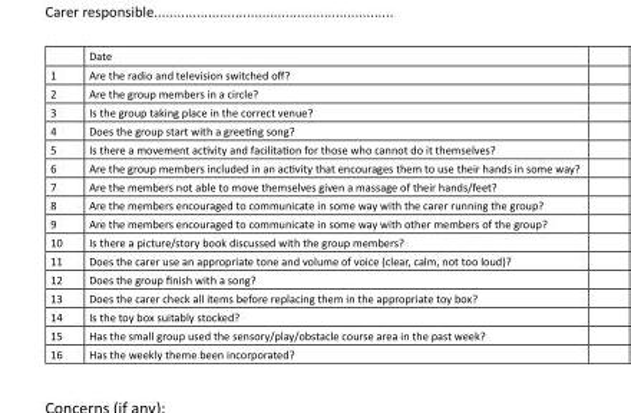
<table><thead><tr><td></td><td>Date</td></tr></thead><tbody><tr><td>1</td><td>Are the radio and television switched off?</td></tr><tr><td>2</td><td>Are the group members in a circle?</td></tr><tr><td>3</td><td>Is the group taking place in the correct venue?</td></tr><tr><td>4</td><td>Does the group start with a greeting song?</td></tr><tr><td>5</td><td>Is there a movement activity and facilitation for those who cannot do it themselves?</td></tr><tr><td>6</td><td>Are the group members included in an activity that encourages them to use their hands in some way?</td></tr><tr><td>7</td><td>Are the members not able to move themselves given a massage of their hands/feet?</td></tr><tr><td>8</td><td>Are the members encouraged to communicate in some way with the carer running the group?</td></tr><tr><td>9</td><td>Are the members encouraged to communicate in some way with other members of the group?</td></tr><tr><td>10</td><td>Is there a picture/story book discussed with the group members?</td></tr><tr><td>11</td><td>Does the carer use an appropriate tone and volume of voice (clear, calm, not too loud)?</td></tr><tr><td>12</td><td>Does the group finish with a song?</td></tr><tr><td>13</td><td>Does the carer check all items before replacing them in the appropriate toy box?</td></tr><tr><td>14</td><td>Is the toy box suitably stocked?</td></tr><tr><td>15</td><td>Has the small group used the sensory/play/obstacle course area in the past week?</td></tr><tr><td>16</td><td>Has the weekly theme been incorporated?</td></tr></tbody></table>